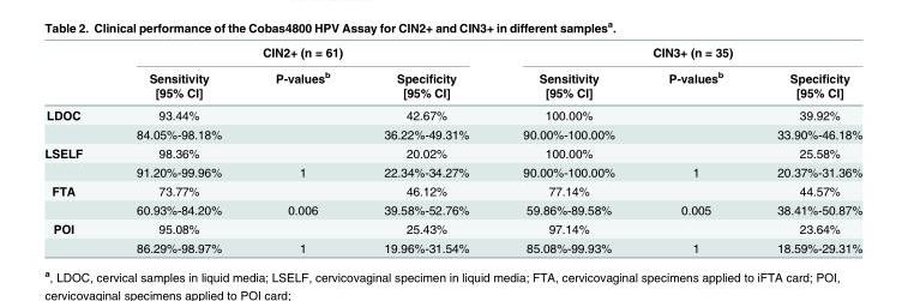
<table><thead><tr><td rowspan="3"></td><td colspan="3">CIN2+ (n = 61)</td><td colspan="3">CIN3+ (n = 35)</td></tr><tr><td rowspan="2">Sensitivity [95% CI]</td><td rowspan="2">P-values<sup>b</sup></td><td rowspan="2">Specificity [95% CI]</td><td rowspan="2">Sensitivity [95% CI]</td><td rowspan="2">P-values<sup>b</sup></td><td rowspan="2">Specificity [95% CI]</td></tr><tr></tr></thead><tbody><tr><td rowspan="2">LDOC</td><td>93.44%</td><td></td><td>42.67%</td><td>100.00%</td><td></td><td>39.92%</td></tr><tr><td>84.05%-98.18%</td><td></td><td>36.22%-49.31%</td><td>90.00%-100.00%</td><td></td><td>33.90%-46.18%</td></tr><tr><td rowspan="2">LSELF</td><td>98.36%</td><td></td><td>20.02%</td><td>100.00%</td><td></td><td>25.58%</td></tr><tr><td>91.20%-99.96%</td><td>1</td><td>22.34%-34.27%</td><td>90.00%-100.00%</td><td>1</td><td>20.37%-31.36%</td></tr><tr><td rowspan="2">FTA</td><td>73.77%</td><td></td><td>46.12%</td><td>77.14%</td><td></td><td>44.57%</td></tr><tr><td>60.93%-84.20%</td><td>0.006</td><td>39.58%-52.76%</td><td>59.86%-89.58%</td><td>0.005</td><td>38.41%-50.87%</td></tr><tr><td rowspan="2">POI</td><td>95.08%</td><td></td><td>25.43%</td><td>97.14%</td><td></td><td>23.64%</td></tr><tr><td>86.29%-98.97%</td><td>1</td><td>19.96%-31.54%</td><td>85.08%-99.93%</td><td>1</td><td>18.59%-29.31%</td></tr></tbody></table>